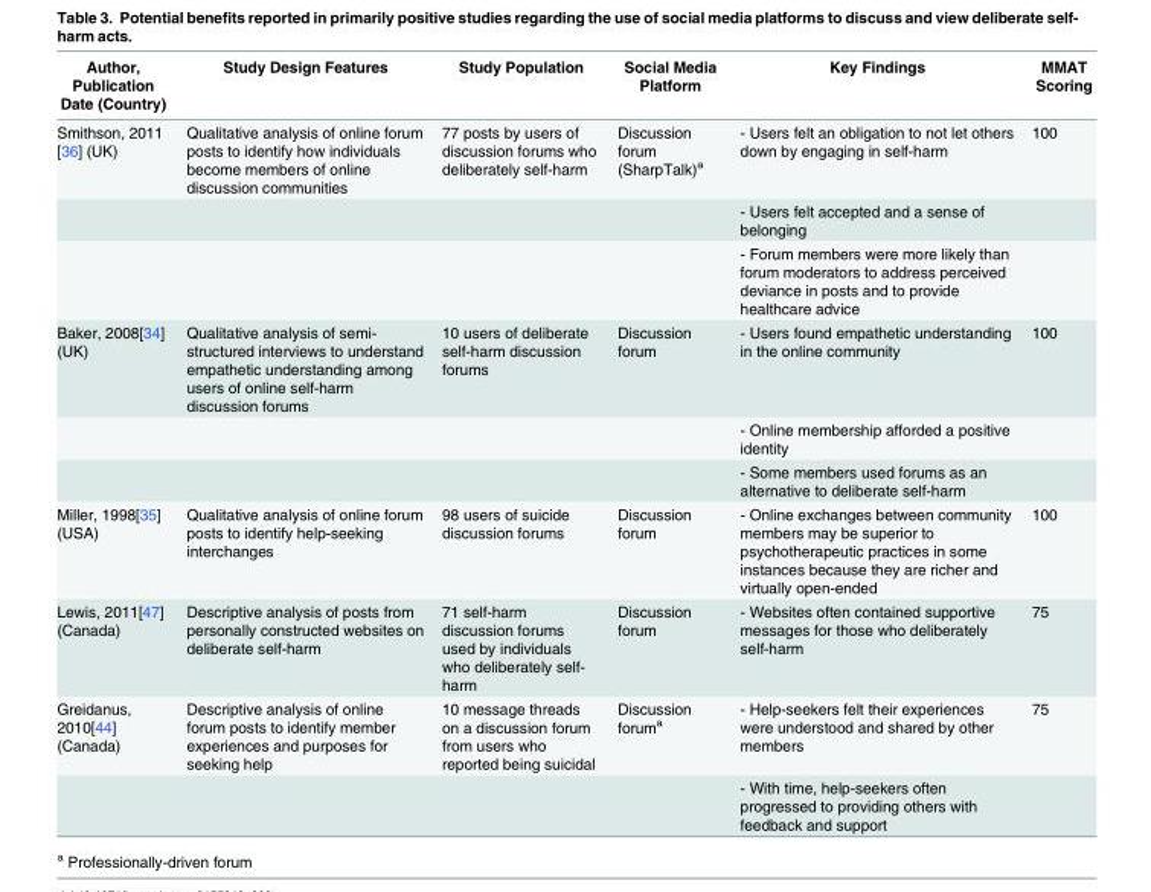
<table><thead><tr><td>Author, Publication Date (Country)</td><td>Study Design Features</td><td>Study Population</td><td>Social Media Platform</td><td>Key Findings</td><td>MMAT Scoring</td></tr></thead><tbody><tr><td rowspan="3">Smithson, 2011 [36] (UK)</td><td>Qualitative analysis of online forum posts to identify how individuals become members of online discussion communities</td><td>77 posts by users of discussion forums who deliberately self-harm</td><td>Discussion forum (SharpTalk)<sup>a</sup></td><td>- Users felt an obligation to not let others down by engaging in self-harm</td><td>100</td></tr><tr><td></td><td></td><td></td><td>- Users felt accepted and a sense of belonging</td><td></td></tr><tr><td></td><td></td><td></td><td>- Forum members were more likely than forum moderators to address perceived deviance in posts and to provide healthcare advice</td><td></td></tr><tr><td rowspan="3">Baker, 2008[34] (UK)</td><td>Qualitative analysis of semi- structured interviews to understand empathetic understanding among users of online self-harm discussion forums</td><td>10 users of deliberate self-harm discussion forums</td><td>Discussion forum</td><td>- Users found empathetic understanding in the online community</td><td>100</td></tr><tr><td></td><td></td><td></td><td>- Online membership afforded a positive identity</td><td></td></tr><tr><td></td><td></td><td></td><td>- Some members used forums as an alternative to deliberate self-harm</td><td></td></tr><tr><td>Miller, 1998[35] (USA)</td><td>Qualitative analysis of online forum posts to identify help-seeking interchanges</td><td>98 users of suicide discussion forums</td><td>Discussion forum</td><td>- Online exchanges between community members may be superior to psychotherapeutic practices in some instances because they are richer and virtually open-ended</td><td>100</td></tr><tr><td>Lewis, 2011[47] (Canada)</td><td>Descriptive analysis of posts from personally constructed websites on deliberate self-harm</td><td>71 self-harm discussion forums used by individuals who deliberately self- harm</td><td>Discussion forum</td><td>- Websites often contained supportive messages for those who deliberately self-harm</td><td>75</td></tr><tr><td rowspan="2">Greidanus, 2010[44] (Canada)</td><td>Descriptive analysis of online forum posts to identify member experiences and purposes for seeking help</td><td>10 message threads on a discussion forum from users who reported being suicidal</td><td>Discussion forum<sup>a</sup></td><td>- Help-seekers felt their experiences were understood and shared by other members</td><td>75</td></tr><tr><td></td><td></td><td></td><td>- With time, help-seekers often progressed to providing others with feedback and support</td><td></td></tr></tbody></table>